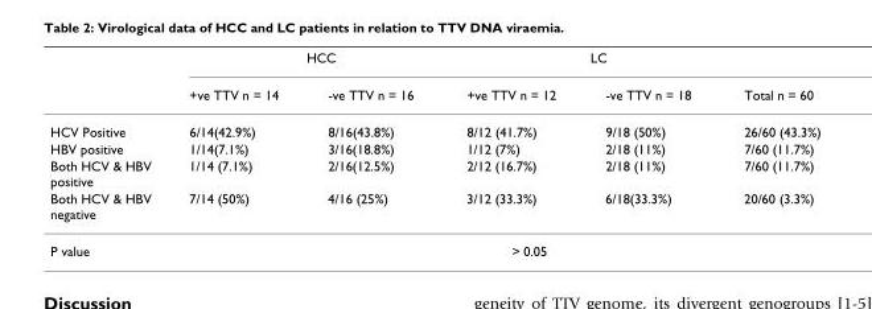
<table><thead><tr><td rowspan="2"></td><td colspan="2">HCC</td><td colspan="2">LC</td><td rowspan="2">Total n = 60</td></tr><tr><td>+ve TTV n = 14</td><td>-ve TTV n = 16</td><td>+ve TTV n = 12</td><td>-ve TTV n = 18</td></tr></thead><tbody><tr><td>HCV Positive</td><td>6/14(42.9%)</td><td>8/16(43.8%)</td><td>8/12 (41.7%)</td><td>9/18 (50%)</td><td>26/60 (43.3%)</td></tr><tr><td>HBV positive</td><td>1/14(7.1%)</td><td>3/16(18.8%)</td><td>1/12 (7%)</td><td>2/18 (11%)</td><td>7/60 (11.7%)</td></tr><tr><td>Both HCV &amp; HBV positive</td><td>1/14 (7.1%)</td><td>2/16(12.5%)</td><td>2/12 (16.7%)</td><td>2/18 (11%)</td><td>7/60 (11.7%)</td></tr><tr><td>Both HCV &amp; HBV negative</td><td>7/14 (50%)</td><td>4/16 (25%)</td><td>3/12 (33.3%)</td><td>6/18(33.3%)</td><td>20/60 (3.3%)</td></tr><tr><td>P value</td><td colspan="5">&gt; 0.05</td></tr></tbody></table>